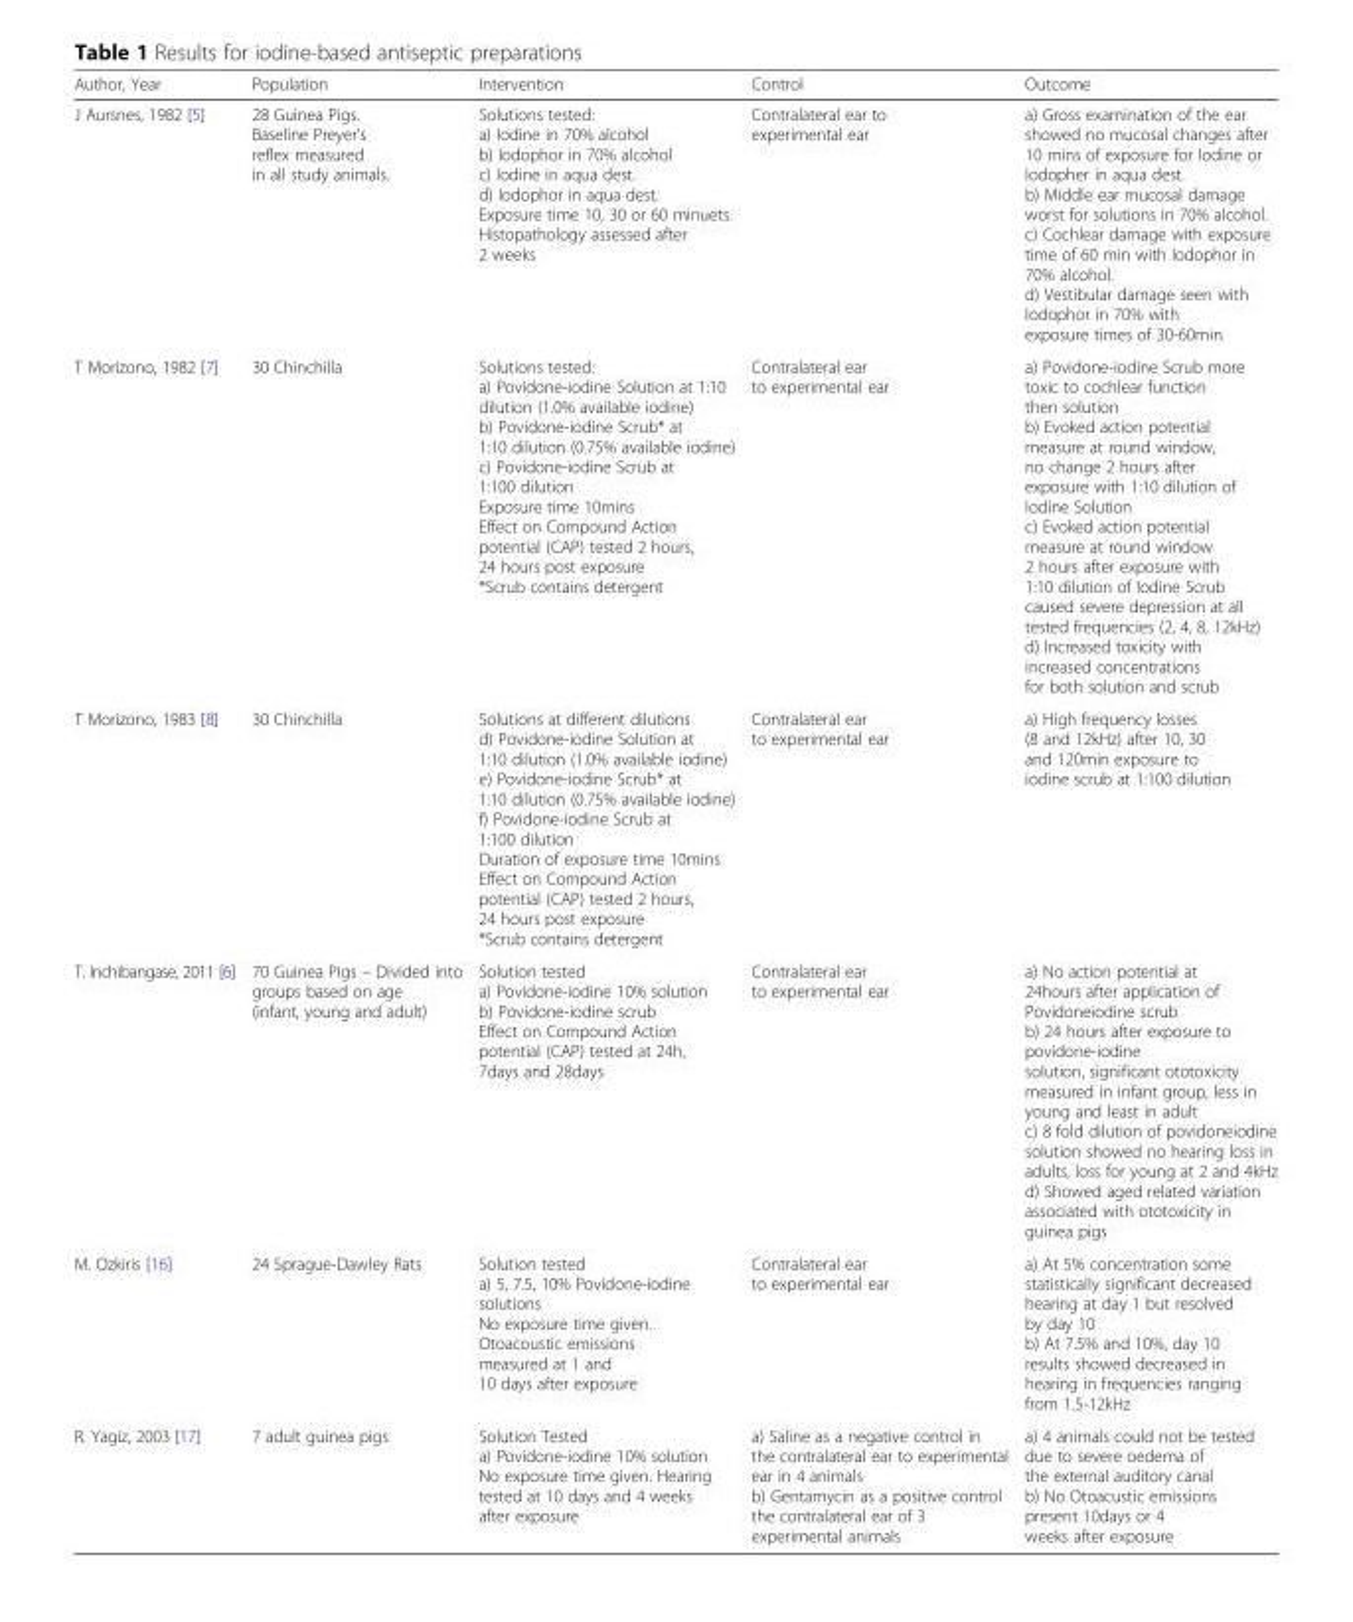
<table><thead><tr><td>Author, Year</td><td>Population</td><td>Intervention</td><td>Control</td><td>Outcome</td></tr></thead><tbody><tr><td>J Aursnes, 1982 [5]</td><td>28 Guinea Pigs. Baseline Preyer’s reflex measured in all study animals.</td><td>Solutions tested: a) Iodine in 70% alcohol b) Iodophor in 70% alcohol c) Iodine in aqua dest. d) Iodophor in aqua dest. Exposure time 10, 30 or 60 minuets. Histopathology assessed after 2 weeks</td><td>Contralateral ear to experimental ear</td><td>a) Gross examination of the ear showed no mucosal changes after 10 mins of exposure for Iodine or Iodopher in aqua dest. b) Middle ear mucosal damage worst for solutions in 70% alcohol. c) Cochlear damage with exposure time of 60 min with Iodophor in 70% alcohol. d) Vestibular damage seen with Iodophor in 70% with exposure times of 30-60min</td></tr><tr><td>T Morizono, 1982 [7]</td><td>30 Chinchilla</td><td>Solutions tested: a) Povidone-iodine Solution at 1:10 dilution (1.0% available iodine) b) Povidone-iodine Scrub* at 1:10 dilution (0.75% available iodine) c) Povidone-iodine Scrub at 1:100 dilution Exposure time 10mins Effect on Compound Action potential (CAP) tested 2 hours, 24 hours post exposure *Scrub contains detergent</td><td>Contralateral ear to experimental ear</td><td>a) Povidone-iodine Scrub more toxic to cochlear function then solution b) Evoked action potential measure at round window, no change 2 hours after exposure with 1:10 dilution of Iodine Solution c) Evoked action potential measure at round window 2 hours after exposure with 1:10 dilution of Iodine Scrub caused severe depression at all tested frequencies (2, 4, 8, 12kHz) d) Increased toxicity with increased concentrations for both solution and scrub</td></tr><tr><td>T Morizono, 1983 [8]</td><td>30 Chinchilla</td><td>Solutions at different dilutions d) Povidone-iodine Solution at 1:10 dilution (1.0% available iodine) e) Povidone-iodine Scrub* at 1:10 dilution (0.75% available iodine) f) Povidone-iodine Scrub at 1:100 dilution Duration of exposure time 10mins Effect on Compound Action potential (CAP) tested 2 hours, 24 hours post exposure *Scrub contains detergent</td><td>Contralateral ear to experimental ear</td><td>a) High frequency losses (8 and 12kHz) after 10, 30 and 120min exposure to iodine scrub at 1:100 dilution</td></tr><tr><td>T. Inchibangase, 2011 [6]</td><td>70 Guinea Pigs – Divided into groups based on age (infant, young and adult)</td><td>Solution tested a) Povidone-iodine 10% solution b) Povidone-iodine scrub Effect on Compound Action potential (CAP) tested at 24h, 7days and 28days</td><td>Contralateral ear to experimental ear</td><td>a) No action potential at 24hours after application of Povidoneiodine scrub b) 24 hours after exposure to povidone-iodine solution, significant ototoxicity measured in infant group, less in young and least in adult c) 8 fold dilution of povidoneiodine solution showed no hearing loss in adults, loss for young at 2 and 4kHz d) Showed aged related variation associated with ototoxicity in guinea pigs</td></tr><tr><td>M. Ozkiris [16]</td><td>24 Sprague-Dawley Rats</td><td>Solution tested a) 5, 7.5, 10% Povidone-iodine solutions No exposure time given. Otoacoustic emissions measured at 1 and 10 days after exposure</td><td>Contralateral ear to experimental ear</td><td>a) At 5% concentration some statistically significant decreased hearing at day 1 but resolved by day 10 b) At 7.5% and 10%, day 10 results showed decreased in hearing in frequencies ranging from 1.5-12kHz</td></tr><tr><td>R. Yagiz, 2003 [17]</td><td>7 adult guinea pigs</td><td>Solution Tested a) Povidone-iodine 10% solution No exposure time given. Hearing tested at 10 days and 4 weeks after exposure</td><td>a) Saline as a negative control in the contralateral ear to experimental ear in 4 animals b) Gentamycin as a positive control the contralateral ear of 3 experimental animals</td><td>a) 4 animals could not be tested due to severe oedema of the external auditory canal b) No Otoacustic emissions present 10days or 4 weeks after exposure</td></tr></tbody></table>